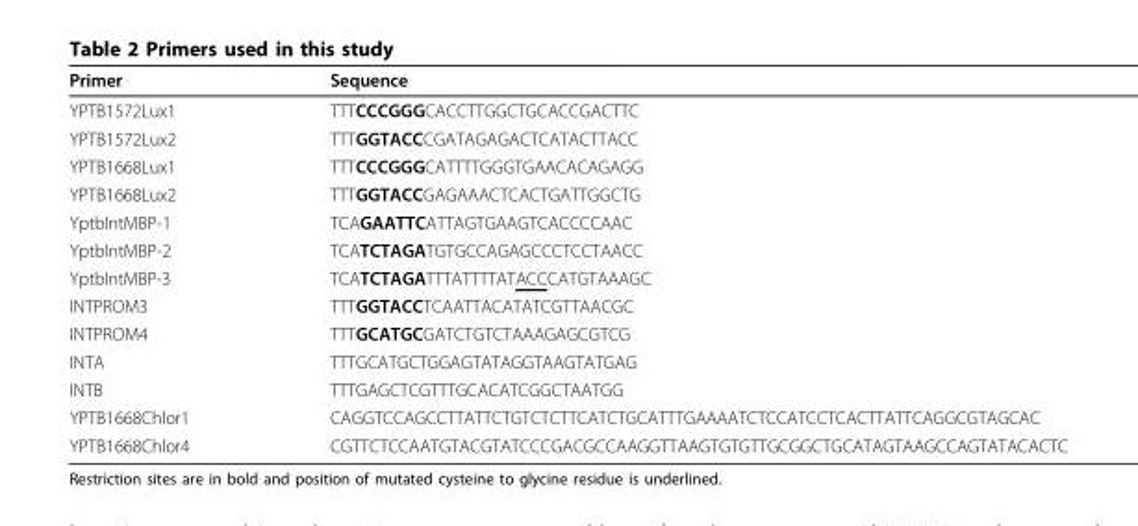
<table><thead><tr><td>Primer</td><td>Sequence</td></tr></thead><tbody><tr><td>YPTB1572Lux1</td><td>TTTCCCGGGCACCTTGGCTGCACCGACTTC</td></tr><tr><td>YPTB1572Lux2</td><td>TTTGGTACCCGATAGAGACTCATACTTACC</td></tr><tr><td>YPTB1668Lux1</td><td>TTTCCCGGGCATTTTGGGTGAACACAGAGG</td></tr><tr><td>YPTB1668Lux2</td><td>TTTGGTACCGAGAAACTCACTGATTGGCTG</td></tr><tr><td>YptbIntMBP-1</td><td>TCAGAATTCATTAGTGAAGTCACCCCAAC</td></tr><tr><td>YptbIntMBP-2</td><td>TCATCTAGATGTGCCAGAGCCCTCCTAACC</td></tr><tr><td>YptbIntMBP-3</td><td>TCATCTAGATTTATTTTATACCCATGTAAAGC</td></tr><tr><td>INTPROM3</td><td>TTTGGTACCTCAATTACATATCGTTAACGC</td></tr><tr><td>INTPROM4</td><td>TTTGCATGCGATCTGTCTAAAGAGCGTCG</td></tr><tr><td>INTA</td><td>TTTGCATGCTGGAGTATAGGTAAGTATGAG</td></tr><tr><td>INTB</td><td>TTTGAGCTCGTTTGCACATCGGCTAATGG</td></tr><tr><td>YPTB1668Chlor1</td><td>CAGGTCCAGCCTTATTCTGTCTCTTCATCTGCATTTGAAAATCTCCATCCTCACTTATTCAGGCGTAGCAC</td></tr><tr><td>YPTB1668Chlor4</td><td>CGTTCTCCAATGTACGTATCCCGACGCCAAGGTTAAGTGTGTTGCGGCTGCATAGTAAGCCAGTATACACTC</td></tr></tbody></table>